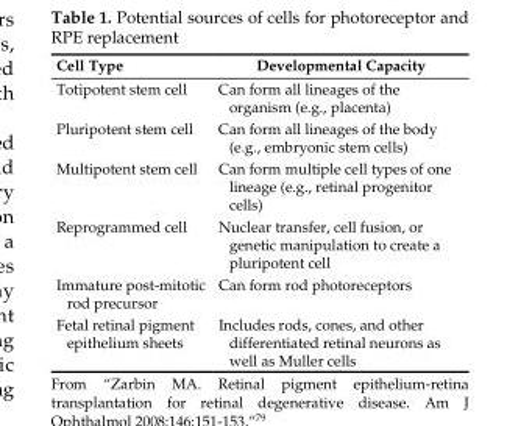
<table><thead><tr><td>Cell Type</td><td>Developmental Capacity</td></tr></thead><tbody><tr><td>Totipotent stem cell</td><td>Can form all lineages of the organism (e.g., placenta)</td></tr><tr><td>Pluripotent stem cell</td><td>Can form all lineages of the body (e.g., embryonic stem cells)</td></tr><tr><td>Multipotent stem cell</td><td>Can form multiple cell types of one lineage (e.g., retinal progenitor cells)</td></tr><tr><td>Reprogrammed cell</td><td>Nuclear transfer, cell fusion, or genetic manipulation to create a pluripotent cell</td></tr><tr><td>Immature post-mitotic rod precursor</td><td>Can form rod photoreceptors</td></tr><tr><td>Fetal retinal pigment epithelium sheets</td><td>Includes rods, cones, and other differentiated retinal neurons as well as Muller cells</td></tr></tbody></table>